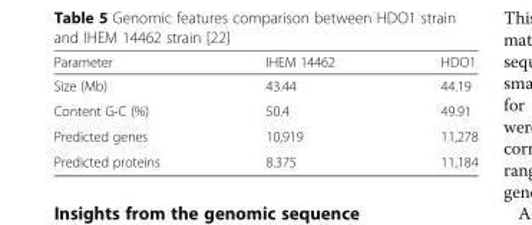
<table><thead><tr><td>Parameter</td><td>IHEM 14462</td><td>HDO1</td></tr></thead><tbody><tr><td>Size (Mb)</td><td>43.44</td><td>44.19</td></tr><tr><td>Content G-C (%)</td><td>50.4</td><td>49.91</td></tr><tr><td>Predicted genes</td><td>10,919</td><td>11,278</td></tr><tr><td>Predicted proteins</td><td>8.375</td><td>11,184</td></tr></tbody></table>